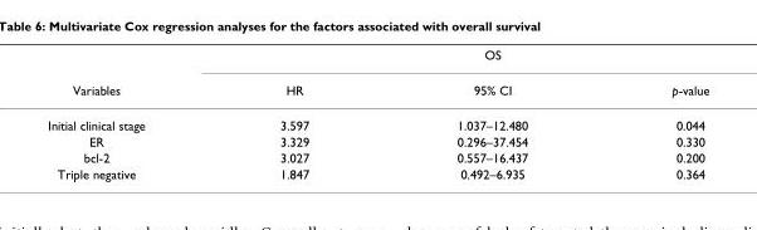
<table><thead><tr><td rowspan="2">Variables</td><td colspan="3">OS</td></tr><tr><td>HR</td><td>95% CI</td><td>p-value</td></tr></thead><tbody><tr><td>Initial clinical stage</td><td>3.597</td><td>1.037–12.480</td><td>0.044</td></tr><tr><td>ER</td><td>3.329</td><td>0.296–37.454</td><td>0.330</td></tr><tr><td>bcl-2</td><td>3.027</td><td>0.557–16.437</td><td>0.200</td></tr><tr><td>Triple negative</td><td>1.847</td><td>0.492–6.935</td><td>0.364</td></tr></tbody></table>